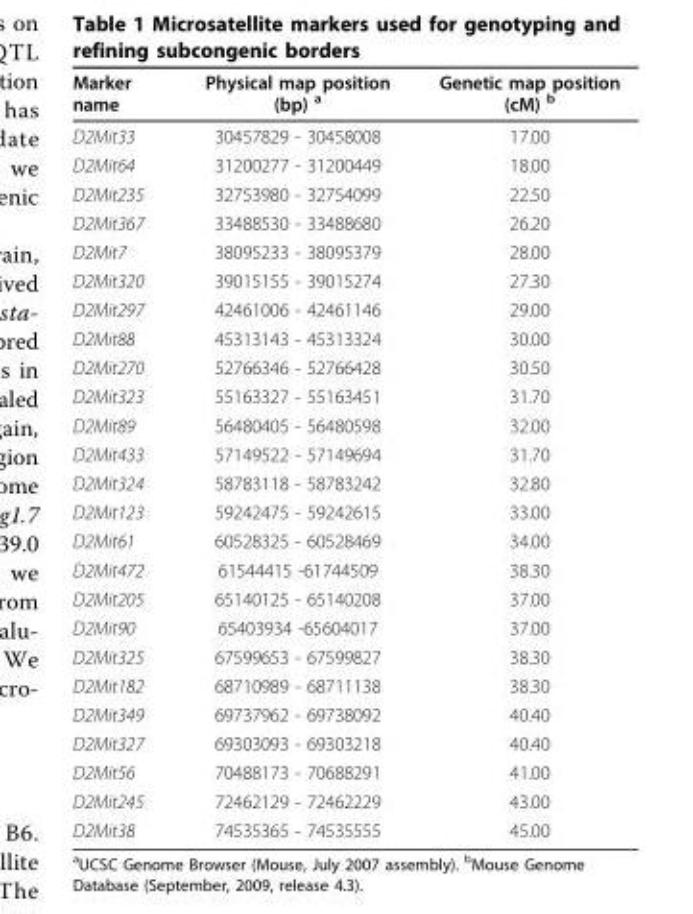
<table><thead><tr><td>Marker name</td><td>Physical map position (bp) <sup>a</sup></td><td>Genetic map position (cM) <sup>b</sup></td></tr></thead><tbody><tr><td>D2Mit33</td><td>30457829 - 30458008</td><td>17.00</td></tr><tr><td>D2Mit64</td><td>31200277 - 31200449</td><td>18.00</td></tr><tr><td>D2Mit235</td><td>32753980 - 32754099</td><td>22.50</td></tr><tr><td>D2Mit367</td><td>33488530 - 33488680</td><td>26.20</td></tr><tr><td>D2Mit7</td><td>38095233 - 38095379</td><td>28.00</td></tr><tr><td>D2Mit320</td><td>39015155 - 39015274</td><td>27.30</td></tr><tr><td>D2Mit297</td><td>42461006 - 42461146</td><td>29.00</td></tr><tr><td>D2Mit88</td><td>45313143 - 45313324</td><td>30.00</td></tr><tr><td>D2Mit270</td><td>52766346 - 52766428</td><td>30.50</td></tr><tr><td>D2Mit323</td><td>55163327 - 55163451</td><td>31.70</td></tr><tr><td>D2Mit89</td><td>56480405 - 56480598</td><td>32.00</td></tr><tr><td>D2Mit433</td><td>57149522 - 57149694</td><td>31.70</td></tr><tr><td>D2Mit324</td><td>58783118 - 58783242</td><td>32.80</td></tr><tr><td>D2Mit123</td><td>59242475 - 59242615</td><td>33.00</td></tr><tr><td>D2Mit61</td><td>60528325 - 60528469</td><td>34.00</td></tr><tr><td>D2Mit472</td><td>61544415 -61744509</td><td>38.30</td></tr><tr><td>D2Mit205</td><td>65140125 - 65140208</td><td>37.00</td></tr><tr><td>D2Mit90</td><td>65403934 -65604017</td><td>37.00</td></tr><tr><td>D2Mit325</td><td>67599653 - 67599827</td><td>38.30</td></tr><tr><td>D2Mit182</td><td>68710989 - 68711138</td><td>38.30</td></tr><tr><td>D2Mit349</td><td>69737962 - 69738092</td><td>40.40</td></tr><tr><td>D2Mit327</td><td>69303093 - 69303218</td><td>40.40</td></tr><tr><td>D2Mit56</td><td>70488173 - 70688291</td><td>41.00</td></tr><tr><td>D2Mit245</td><td>72462129 - 72462229</td><td>43.00</td></tr><tr><td>D2Mit38</td><td>74535365 - 74535555</td><td>45.00</td></tr></tbody></table>